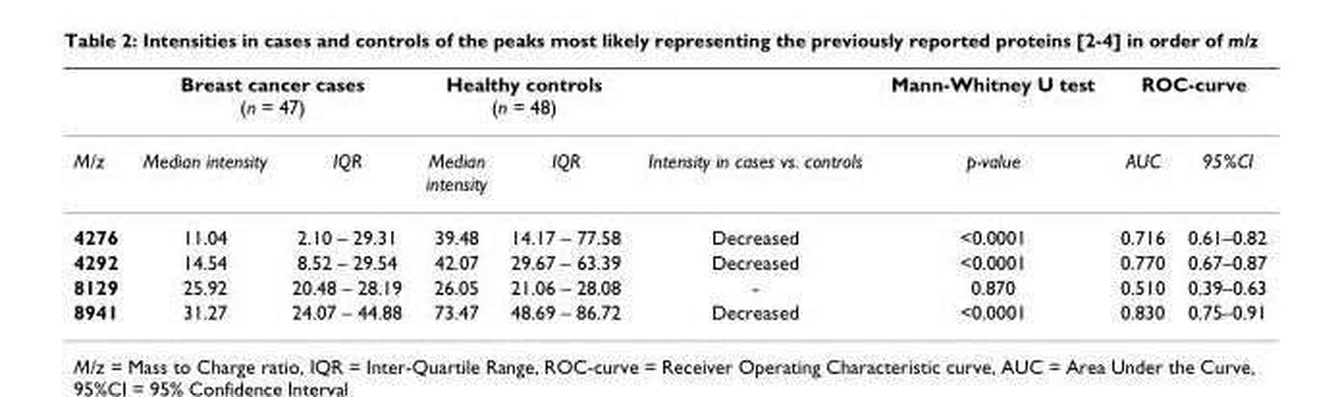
<table><thead><tr><td rowspan="2">M/z</td><td colspan="2">Breast cancer cases (n = 47)</td><td colspan="2">Healthy controls (n = 48)</td><td rowspan="2">Intensity in cases vs. controls</td><td rowspan="2">Mann-Whitney U test p-value</td><td colspan="2">ROC-curve</td></tr><tr><td>Median intensity</td><td>IQR</td><td>Median intensity</td><td>IQR</td><td>AUC</td><td>95%CI</td></tr></thead><tbody><tr><td>4276</td><td>11.04</td><td>2.10 – 29.31</td><td>39.48</td><td>14.17 – 77.58</td><td>Decreased</td><td>&lt;0.0001</td><td>0.716</td><td>0.61–0.82</td></tr><tr><td>4292</td><td>14.54</td><td>8.52 – 29.54</td><td>42.07</td><td>29.67 – 63.39</td><td>Decreased</td><td>&lt;0.0001</td><td>0.770</td><td>0.67–0.87</td></tr><tr><td>8129</td><td>25.92</td><td>20.48 – 28.19</td><td>26.05</td><td>21.06 – 28.08</td><td>-</td><td>0.870</td><td>0.510</td><td>0.39–0.63</td></tr><tr><td>8941</td><td>31.27</td><td>24.07 – 44.88</td><td>73.47</td><td>48.69 – 86.72</td><td>Decreased</td><td>&lt;0.0001</td><td>0.830</td><td>0.75–0.91</td></tr></tbody></table>